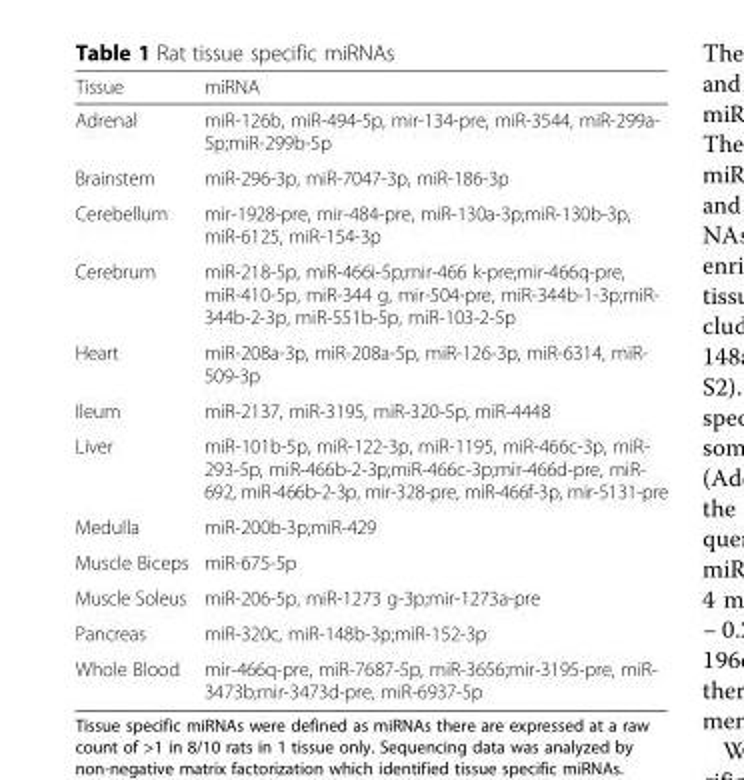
<table><thead><tr><td>Tissue</td><td>miRNA</td></tr></thead><tbody><tr><td>Adrenal</td><td>miR-126b, miR-494-5p, mir-134-pre, miR-3544, miR-299a- 5p;miR-299b-5p</td></tr><tr><td>Brainstem</td><td>miR-296-3p, miR-7047-3p, miR-186-3p</td></tr><tr><td>Cerebellum</td><td>mir-1928-pre, mir-484-pre, miR-130a-3p;miR-130b-3p, miR-6125, miR-154-3p</td></tr><tr><td>Cerebrum</td><td>miR-218-5p, miR-466i-5p;mir-466 k-pre;mir-466q-pre, miR-410-5p, miR-344 g, mir-504-pre, miR-344b-1-3p;miR- 344b-2-3p, miR-551b-5p, miR-103-2-5p</td></tr><tr><td>Heart</td><td>miR-208a-3p, miR-208a-5p, miR-126-3p, miR-6314, miR- 509-3p</td></tr><tr><td>Ileum</td><td>miR-2137, miR-3195, miR-320-5p, miR-4448</td></tr><tr><td>Liver</td><td>miR-101b-5p, miR-122-3p, miR-1195, miR-466c-3p, miR- 293-5p, miR-466b-2-3p;miR-466c-3p;mir-466d-pre, miR- 692, miR-466b-2-3p, mir-328-pre, miR-466f-3p, mir-5131-pre</td></tr><tr><td>Medulla</td><td>miR-200b-3p;miR-429</td></tr><tr><td>Muscle Biceps</td><td>miR-675-5p</td></tr><tr><td>Muscle Soleus</td><td>miR-206-5p, miR-1273 g-3p;mir-1273a-pre</td></tr><tr><td>Pancreas</td><td>miR-320c, miR-148b-3p;miR-152-3p</td></tr><tr><td>Whole Blood</td><td>mir-466q-pre, miR-7687-5p, miR-3656;mir-3195-pre, miR- 3473b;mir-3473d-pre, miR-6937-5p</td></tr></tbody></table>